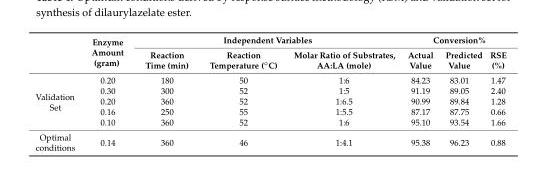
<table><thead><tr><td rowspan="2"></td><td rowspan="2">Enzyme Amount (gram)</td><td colspan="3">Independent Variables</td><td colspan="3">Conversion%</td></tr><tr><td>Reaction Time (min)</td><td>Reaction Temperature (◦C)</td><td>Molar Ratio of Substrates, AA:LA (mole)</td><td>Actual Value</td><td>Predicted Value</td><td>RSE (%)</td></tr></thead><tbody><tr><td rowspan="5">Validation Set</td><td>0.20</td><td>180</td><td>50</td><td>1:6</td><td>84.23</td><td>83.01</td><td>1.47</td></tr><tr><td>0.30</td><td>300</td><td>52</td><td>1:5</td><td>91.19</td><td>89.05</td><td>2.40</td></tr><tr><td>0.20</td><td>360</td><td>52</td><td>1:6.5</td><td>90.99</td><td>89.84</td><td>1.28</td></tr><tr><td>0.16</td><td>250</td><td>55</td><td>1:5.5</td><td>87.17</td><td>87.75</td><td>0.66</td></tr><tr><td>0.10</td><td>360</td><td>52</td><td>1:6</td><td>95.10</td><td>93.54</td><td>1.66</td></tr><tr><td>Optimal conditions</td><td>0.14</td><td>360</td><td>46</td><td>1:4.1</td><td>95.38</td><td>96.23</td><td>0.88</td></tr></tbody></table>